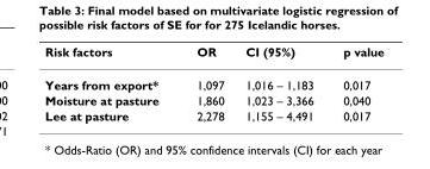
<table><thead><tr><td>Risk factors</td><td>OR</td><td>CI (95%)</td><td>p value</td></tr></thead><tbody><tr><td>Years from export*</td><td>1,097</td><td>1,016 – 1,183</td><td>0,017</td></tr><tr><td>Moisture at pasture</td><td>1,860</td><td>1,023 – 3,366</td><td>0,040</td></tr><tr><td>Lee at pasture</td><td>2,278</td><td>1,155 – 4,491</td><td>0,017</td></tr></tbody></table>